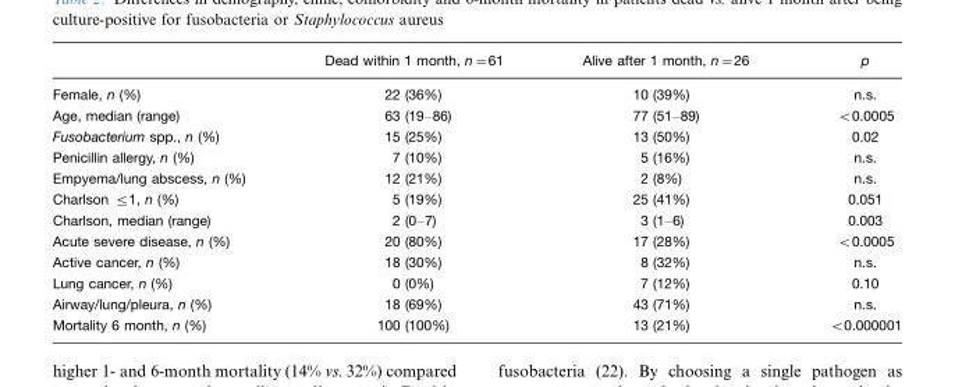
<table><thead><tr><td></td><td>Dead within 1 month, n=61</td><td>Alive after 1 month, n�26</td><td>p</td></tr></thead><tbody><tr><td>Female, n (%)</td><td>22 (36%)</td><td>10 (39%)</td><td>n.s.</td></tr><tr><td>Age, median (range)</td><td>63 (19–86)</td><td>77 (51–89)</td><td>&lt;0.0005</td></tr><tr><td>Fusobacterium spp., n (%)</td><td>15 (25%)</td><td>13 (50%)</td><td>0.02</td></tr><tr><td>Penicillin allergy, n (%)</td><td>7 (10%)</td><td>5 (16%)</td><td>n.s.</td></tr><tr><td>Empyema/lung abscess, n (%)</td><td>12 (21%)</td><td>2 (8%)</td><td>n.s.</td></tr><tr><td>Charlson ≤1, n (%)</td><td>5 (19%)</td><td>25 (41%)</td><td>0.051</td></tr><tr><td>Charlson, median (range)</td><td>2 (0–7)</td><td>3 (1–6)</td><td>0.003</td></tr><tr><td>Acute severe disease, n (%)</td><td>20 (80%)</td><td>17 (28%)</td><td>&lt;0.0005</td></tr><tr><td>Active cancer, n (%)</td><td>18 (30%)</td><td>8 (32%)</td><td>n.s.</td></tr><tr><td>Lung cancer, n (%)</td><td>0 (0%)</td><td>7 (12%)</td><td>0.10</td></tr><tr><td>Airway/lung/pleura, n (%)</td><td>18 (69%)</td><td>43 (71%)</td><td>n.s.</td></tr><tr><td>Mortality 6 month, n (%)</td><td>100 (100%)</td><td>13 (21%)</td><td>&lt;0.000001</td></tr></tbody></table>